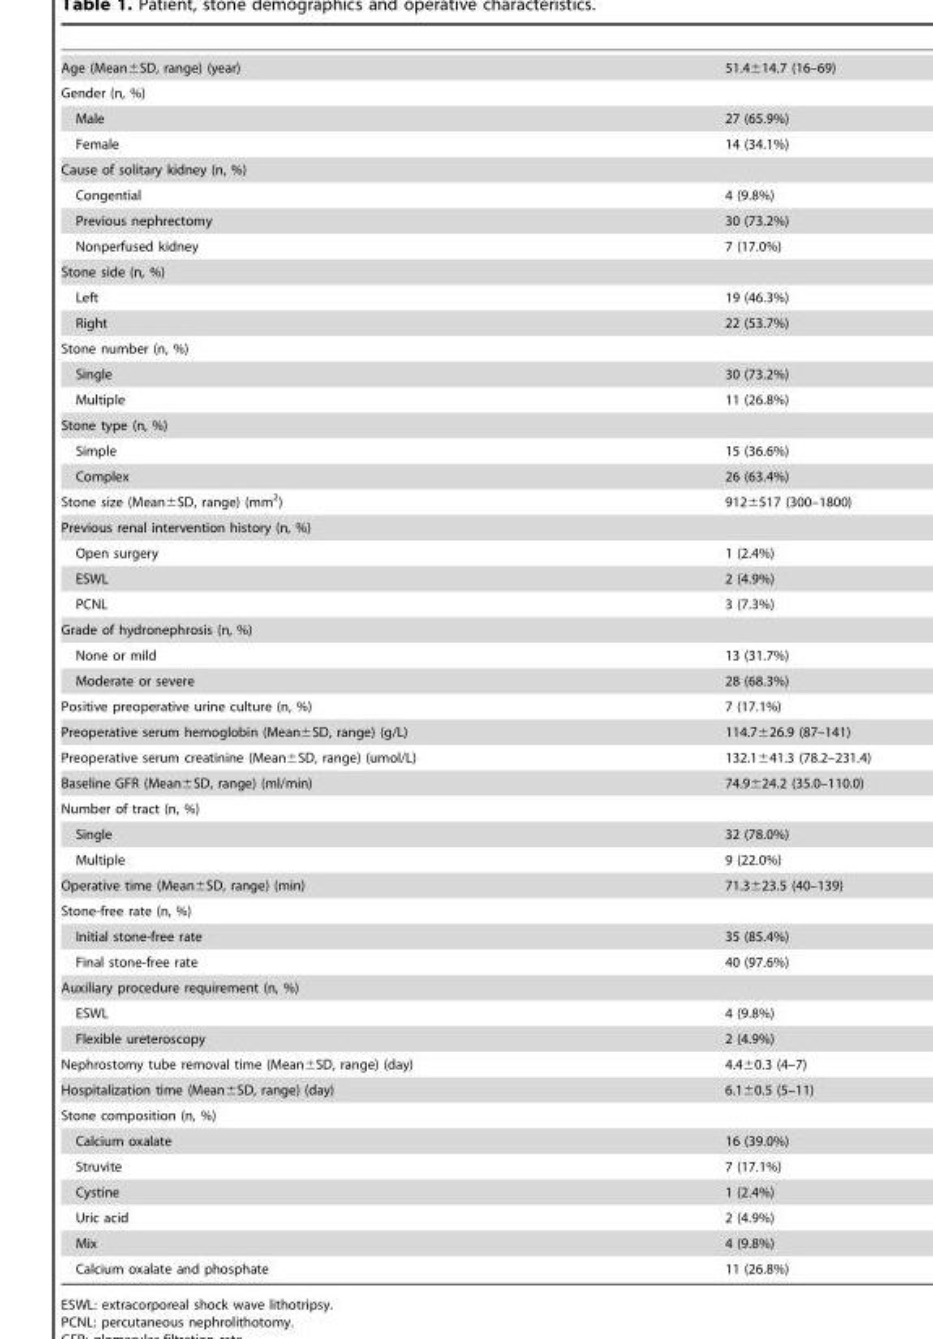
<table><tbody><tr><td>Age (Mean±SD, range) (year)</td><td>51.4±14.7 (16–69)</td></tr><tr><td colspan="2">Gender (n, %)</td></tr><tr><td>Male</td><td>27 (65.9%)</td></tr><tr><td>Female</td><td>14 (34.1%)</td></tr><tr><td colspan="2">Cause of solitary kidney (n, %)</td></tr><tr><td>Congential</td><td>4 (9.8%)</td></tr><tr><td>Previous nephrectomy</td><td>30 (73.2%)</td></tr><tr><td>Nonperfused kidney</td><td>7 (17.0%)</td></tr><tr><td colspan="2">Stone side (n, %)</td></tr><tr><td>Left</td><td>19 (46.3%)</td></tr><tr><td>Right</td><td>22 (53.7%)</td></tr><tr><td colspan="2">Stone number (n, %)</td></tr><tr><td>Single</td><td>30 (73.2%)</td></tr><tr><td>Multiple</td><td>11 (26.8%)</td></tr><tr><td colspan="2">Stone type (n, %)</td></tr><tr><td>Simple</td><td>15 (36.6%)</td></tr><tr><td>Complex</td><td>26 (63.4%)</td></tr><tr><td>Stone size (Mean±SD, range) (mm<sup>2</sup>)</td><td>912±517 (300–1800)</td></tr><tr><td colspan="2">Previous renal intervention history (n, %)</td></tr><tr><td>Open surgery</td><td>1 (2.4%)</td></tr><tr><td>ESWL</td><td>2 (4.9%)</td></tr><tr><td>PCNL</td><td>3 (7.3%)</td></tr><tr><td colspan="2">Grade of hydronephrosis (n, %)</td></tr><tr><td>None or mild</td><td>13 (31.7%)</td></tr><tr><td>Moderate or severe</td><td>28 (68.3%)</td></tr><tr><td>Positive preoperative urine culture (n, %)</td><td>7 (17.1%)</td></tr><tr><td>Preoperative serum hemoglobin (Mean±SD, range) (g/L)</td><td>114.7±26.9 (87–141)</td></tr><tr><td>Preoperative serum creatinine (Mean±SD, range) (umol/L)</td><td>132.1±41.3 (78.2–231.4)</td></tr><tr><td>Baseline GFR (Mean±SD, range) (ml/min)</td><td>74.9±24.2 (35.0–110.0)</td></tr><tr><td colspan="2">Number of tract (n, %)</td></tr><tr><td>Single</td><td>32 (78.0%)</td></tr><tr><td>Multiple</td><td>9 (22.0%)</td></tr><tr><td>Operative time (Mean±SD, range) (min)</td><td>71.3±23.5 (40–139)</td></tr><tr><td colspan="2">Stone-free rate (n, %)</td></tr><tr><td>Initial stone-free rate</td><td>35 (85.4%)</td></tr><tr><td>Final stone-free rate</td><td>40 (97.6%)</td></tr><tr><td colspan="2">Auxiliary procedure requirement (n, %)</td></tr><tr><td>ESWL</td><td>4 (9.8%)</td></tr><tr><td>Flexible ureteroscopy</td><td>2 (4.9%)</td></tr><tr><td>Nephrostomy tube removal time (Mean±SD, range) (day)</td><td>4.4±0.3 (4–7)</td></tr><tr><td>Hospitalization time (Mean±SD, range) (day)</td><td>6.1±0.5 (5–11)</td></tr><tr><td colspan="2">Stone composition (n, %)</td></tr><tr><td>Calcium oxalate</td><td>16 (39.0%)</td></tr><tr><td>Struvite</td><td>7 (17.1%)</td></tr><tr><td>Cystine</td><td>1 (2.4%)</td></tr><tr><td>Uric acid</td><td>2 (4.9%)</td></tr><tr><td>Mix</td><td>4 (9.8%)</td></tr><tr><td>Calcium oxalate and phosphate</td><td>11 (26.8%)</td></tr></tbody></table>